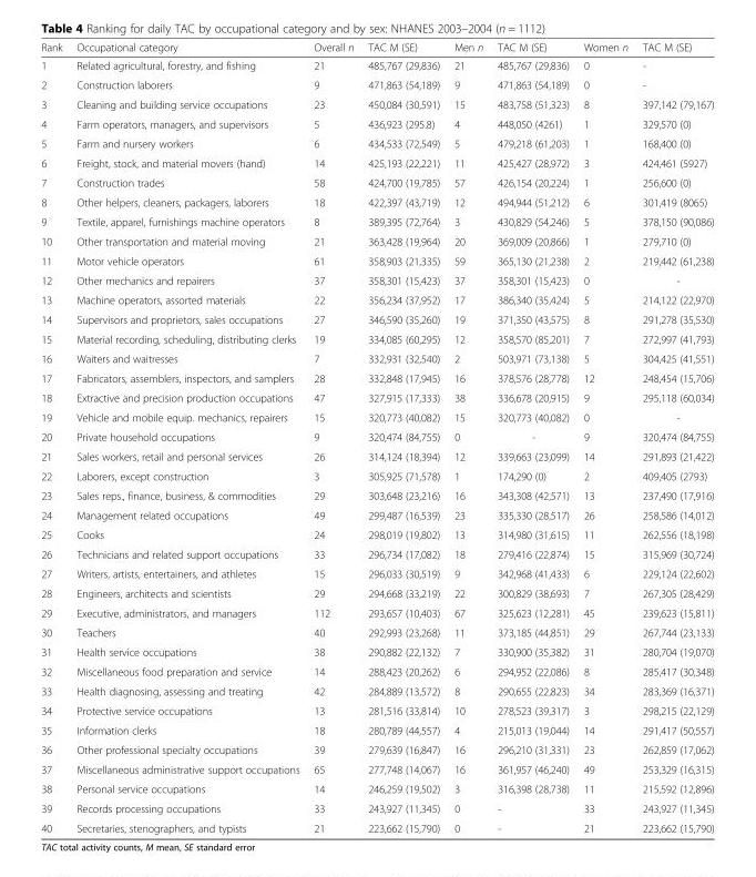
<table><thead><tr><td>Rank</td><td>Occupational category</td><td>Overall n</td><td>TAC M (SE)</td><td>Men n</td><td>TAC M (SE)</td><td>Women n</td><td>TAC M (SE)</td></tr></thead><tbody><tr><td>1</td><td>Related agricultural, forestry, and fishing</td><td>21</td><td>485,767 (29,836)</td><td>21</td><td>485,767 (29,836)</td><td>0</td><td>-</td></tr><tr><td>2</td><td>Construction laborers</td><td>9</td><td>471,863 (54,189)</td><td>9</td><td>471,863 (54,189)</td><td>0</td><td>-</td></tr><tr><td>3</td><td>Cleaning and building service occupations</td><td>23</td><td>450,084 (30,591)</td><td>15</td><td>483,758 (51,323)</td><td>8</td><td>397,142 (79,167)</td></tr><tr><td>4</td><td>Farm operators, managers, and supervisors</td><td>5</td><td>436,923 (295.8)</td><td>4</td><td>448,050 (4261)</td><td>1</td><td>329,570 (0)</td></tr><tr><td>5</td><td>Farm and nursery workers</td><td>6</td><td>434,533 (72,549)</td><td>5</td><td>479,218 (61,203)</td><td>1</td><td>168,400 (0)</td></tr><tr><td>6</td><td>Freight, stock, and material movers (hand)</td><td>14</td><td>425,193 (22,221)</td><td>11</td><td>425,427 (28,972)</td><td>3</td><td>424,461 (5927)</td></tr><tr><td>7</td><td>Construction trades</td><td>58</td><td>424,700 (19,785)</td><td>57</td><td>426,154 (20,224)</td><td>1</td><td>256,600 (0)</td></tr><tr><td>8</td><td>Other helpers, cleaners, packagers, laborers</td><td>18</td><td>422,397 (43,719)</td><td>12</td><td>494,944 (51,212)</td><td>6</td><td>301,419 (8065)</td></tr><tr><td>9</td><td>Textile, apparel, furnishings machine operators</td><td>8</td><td>389,395 (72,764)</td><td>3</td><td>430,829 (54,246)</td><td>5</td><td>378,150 (90,086)</td></tr><tr><td>10</td><td>Other transportation and material moving</td><td>21</td><td>363,428 (19,964)</td><td>20</td><td>369,009 (20,866)</td><td>1</td><td>279,710 (0)</td></tr><tr><td>11</td><td>Motor vehicle operators</td><td>61</td><td>358,903 (21,335)</td><td>59</td><td>365,130 (21,238)</td><td>2</td><td>219,442 (61,238)</td></tr><tr><td>12</td><td>Other mechanics and repairers</td><td>37</td><td>358,301 (15,423)</td><td>37</td><td>358,301 (15,423)</td><td>0</td><td>-</td></tr><tr><td>13</td><td>Machine operators, assorted materials</td><td>22</td><td>356,234 (37,952)</td><td>17</td><td>386,340 (35,424)</td><td>5</td><td>214,122 (22,970)</td></tr><tr><td>14</td><td>Supervisors and proprietors, sales occupations</td><td>27</td><td>346,590 (35,260)</td><td>19</td><td>371,350 (43,575)</td><td>8</td><td>291,278 (35,530)</td></tr><tr><td>15</td><td>Material recording, scheduling, distributing clerks</td><td>19</td><td>334,085 (60,295)</td><td>12</td><td>358,570 (85,201)</td><td>7</td><td>272,997 (41,793)</td></tr><tr><td>16</td><td>Waiters and waitresses</td><td>7</td><td>332,931 (32,540)</td><td>2</td><td>503,971 (73,138)</td><td>5</td><td>304,425 (41,551)</td></tr><tr><td>17</td><td>Fabricators, assemblers, inspectors, and samplers</td><td>28</td><td>332,848 (17,945)</td><td>16</td><td>378,576 (28,778)</td><td>12</td><td>248,454 (15,706)</td></tr><tr><td>18</td><td>Extractive and precision production occupations</td><td>47</td><td>327,915 (17,333)</td><td>38</td><td>336,678 (20,915)</td><td>9</td><td>295,118 (60,034)</td></tr><tr><td>19</td><td>Vehicle and mobile equip. mechanics, repairers</td><td>15</td><td>320,773 (40,082)</td><td>15</td><td>320,773 (40,082)</td><td>0</td><td>-</td></tr><tr><td>20</td><td>Private household occupations</td><td>9</td><td>320,474 (84,755)</td><td>0</td><td>-</td><td>9</td><td>320,474 (84,755)</td></tr><tr><td>21</td><td>Sales workers, retail and personal services</td><td>26</td><td>314,124 (18,394)</td><td>12</td><td>339,663 (23,099)</td><td>14</td><td>291,893 (21,422)</td></tr><tr><td>22</td><td>Laborers, except construction</td><td>3</td><td>305,925 (71,578)</td><td>1</td><td>174,290 (0)</td><td>2</td><td>409,405 (2793)</td></tr><tr><td>23</td><td>Sales reps., finance, business, &amp; commodities</td><td>29</td><td>303,648 (23,216)</td><td>16</td><td>343,308 (42,571)</td><td>13</td><td>237,490 (17,916)</td></tr><tr><td>24</td><td>Management related occupations</td><td>49</td><td>299,487 (16,539)</td><td>23</td><td>335,330 (28,517)</td><td>26</td><td>258,586 (14,012)</td></tr><tr><td>25</td><td>Cooks</td><td>24</td><td>298,019 (19,802)</td><td>13</td><td>314,980 (31,615)</td><td>11</td><td>262,556 (18,198)</td></tr><tr><td>26</td><td>Technicians and related support occupations</td><td>33</td><td>296,734 (17,082)</td><td>18</td><td>279,416 (22,874)</td><td>15</td><td>315,969 (30,724)</td></tr><tr><td>27</td><td>Writers, artists, entertainers, and athletes</td><td>15</td><td>296,033 (30,519)</td><td>9</td><td>342,968 (41,433)</td><td>6</td><td>229,124 (22,602)</td></tr><tr><td>28</td><td>Engineers, architects and scientists</td><td>29</td><td>294,668 (33,219)</td><td>22</td><td>300,829 (38,693)</td><td>7</td><td>267,305 (28,429)</td></tr><tr><td>29</td><td>Executive, administrators, and managers</td><td>112</td><td>293,657 (10,403)</td><td>67</td><td>325,623 (12,281)</td><td>45</td><td>239,623 (15,811)</td></tr><tr><td>30</td><td>Teachers</td><td>40</td><td>292,993 (23,268)</td><td>11</td><td>373,185 (44,851)</td><td>29</td><td>267,744 (23,133)</td></tr><tr><td>31</td><td>Health service occupations</td><td>38</td><td>290,882 (22,132)</td><td>7</td><td>330,900 (35,382)</td><td>31</td><td>280,704 (19,070)</td></tr><tr><td>32</td><td>Miscellaneous food preparation and service</td><td>14</td><td>288,423 (20,262)</td><td>6</td><td>294,952 (22,086)</td><td>8</td><td>285,417 (30,348)</td></tr><tr><td>33</td><td>Health diagnosing, assessing and treating</td><td>42</td><td>284,889 (13,572)</td><td>8</td><td>290,655 (22,823)</td><td>34</td><td>283,369 (16,371)</td></tr><tr><td>34</td><td>Protective service occupations</td><td>13</td><td>281,516 (33,814)</td><td>10</td><td>278,523 (39,317)</td><td>3</td><td>298,215 (22,129)</td></tr><tr><td>35</td><td>Information clerks</td><td>18</td><td>280,789 (44,557)</td><td>4</td><td>215,013 (19,044)</td><td>14</td><td>291,417 (50,557)</td></tr><tr><td>36</td><td>Other professional specialty occupations</td><td>39</td><td>279,639 (16,847)</td><td>16</td><td>296,210 (31,331)</td><td>23</td><td>262,859 (17,062)</td></tr><tr><td>37</td><td>Miscellaneous administrative support occupations</td><td>65</td><td>277,748 (14,067)</td><td>16</td><td>361,957 (46,240)</td><td>49</td><td>253,329 (16,315)</td></tr><tr><td>38</td><td>Personal service occupations</td><td>14</td><td>246,259 (19,502)</td><td>3</td><td>316,398 (28,738)</td><td>11</td><td>215,592 (12,896)</td></tr><tr><td>39</td><td>Records processing occupations</td><td>33</td><td>243,927 (11,345)</td><td>0</td><td>-</td><td>33</td><td>243,927 (11,345)</td></tr><tr><td>40</td><td>Secretaries, stenographers, and typists</td><td>21</td><td>223,662 (15,790)</td><td>0</td><td>-</td><td>21</td><td>223,662 (15,790)</td></tr></tbody></table>